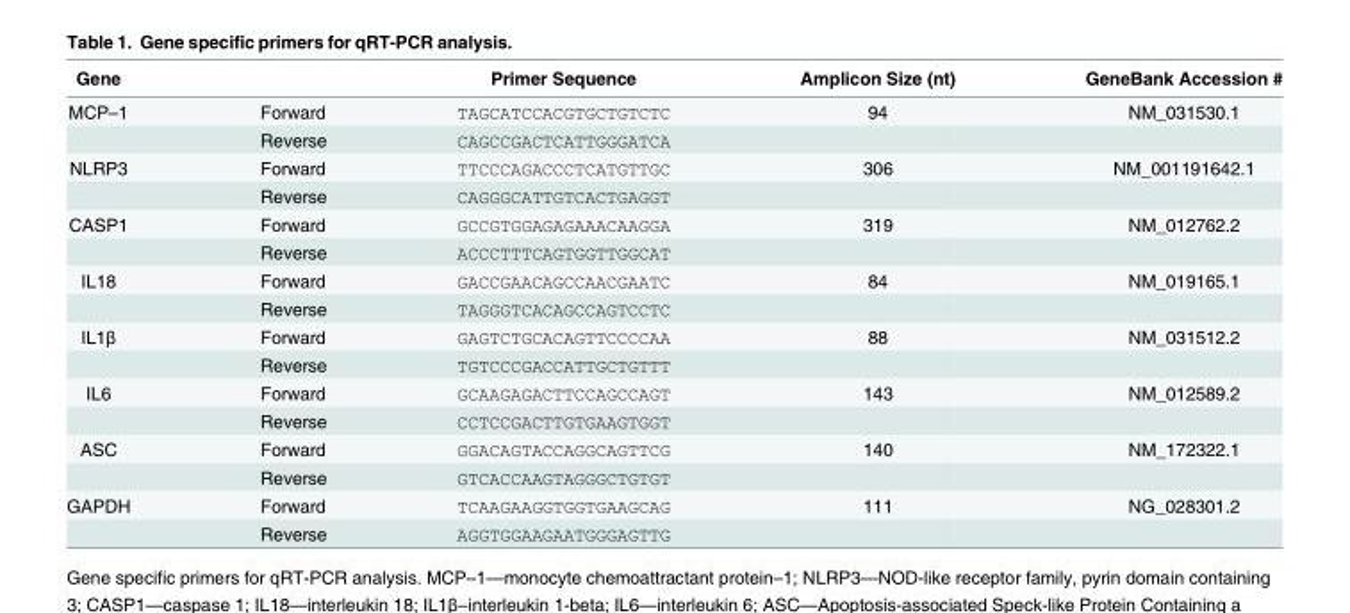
<table><thead><tr><td>Gene</td><td></td><td>Primer Sequence</td><td>Amplicon Size (nt)</td><td>GeneBank Accession #</td></tr></thead><tbody><tr><td rowspan="2">MCP–1</td><td>Forward</td><td>TAGCATCCACGTGCTGTCTC</td><td>94</td><td>NM_031530.1</td></tr><tr><td>Reverse</td><td>CAGCCGACTCATTGGGATCA</td><td></td><td></td></tr><tr><td rowspan="2">NLRP3</td><td>Forward</td><td>TTCCCAGACCCTCATGTTGC</td><td>306</td><td>NM_001191642.1</td></tr><tr><td>Reverse</td><td>CAGGGCATTGTCACTGAGGT</td><td></td><td></td></tr><tr><td rowspan="2">CASP1</td><td>Forward</td><td>GCCGTGGAGAGAAACAAGGA</td><td>319</td><td>NM_012762.2</td></tr><tr><td>Reverse</td><td>ACCCTTTCAGTGGTTGGCAT</td><td></td><td></td></tr><tr><td rowspan="2">IL18</td><td>Forward</td><td>GACCGAACAGCCAACGAATC</td><td>84</td><td>NM_019165.1</td></tr><tr><td>Reverse</td><td>TAGGGTCACAGCCAGTCCTC</td><td></td><td></td></tr><tr><td rowspan="2">IL1β</td><td>Forward</td><td>GAGTCTGCACAGTTCCCCAA</td><td>88</td><td>NM_031512.2</td></tr><tr><td>Reverse</td><td>TGTCCCGACCATTGCTGTTT</td><td></td><td></td></tr><tr><td rowspan="2">IL6</td><td>Forward</td><td>GCAAGAGACTTCCAGCCAGT</td><td>143</td><td>NM_012589.2</td></tr><tr><td>Reverse</td><td>CCTCCGACTTGTGAAGTGGT</td><td></td><td></td></tr><tr><td rowspan="2">ASC</td><td>Forward</td><td>GGACAGTACCAGGCAGTTCG</td><td>140</td><td>NM_172322.1</td></tr><tr><td>Reverse</td><td>GTCACCAAGTAGGGCTGTGT</td><td></td><td></td></tr><tr><td rowspan="2">GAPDH</td><td>Forward</td><td>TCAAGAAGGTGGTGAAGCAG</td><td>111</td><td>NG_028301.2</td></tr><tr><td>Reverse</td><td>AGGTGGAAGAATGGGAGTTG</td><td></td><td></td></tr></tbody></table>